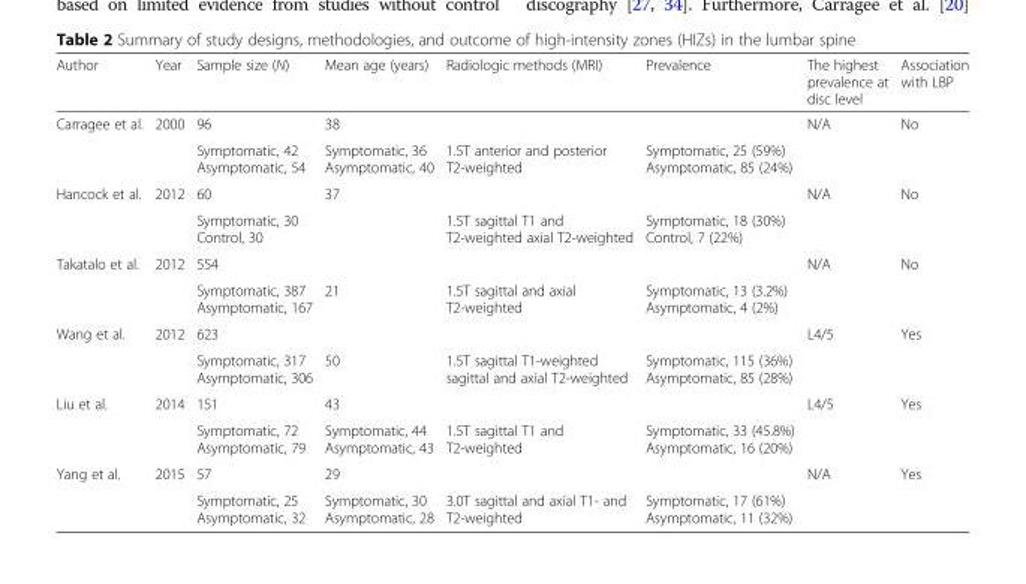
<table><thead><tr><td>Author</td><td>Year</td><td>Sample size (N)</td><td>Mean age (years)</td><td>Radiologic methods (MRI)</td><td>Prevalence</td><td>The highest prevalence at disc level</td><td>Association with LBP</td></tr></thead><tbody><tr><td rowspan="2">Carragee et al.</td><td rowspan="2">2000</td><td>96</td><td>38</td><td></td><td></td><td rowspan="2">N/A</td><td rowspan="2">No</td></tr><tr><td>Symptomatic, 42 Asymptomatic, 54</td><td>Symptomatic, 36 Asymptomatic, 40</td><td>1.5T anterior and posterior T2-weighted</td><td>Symptomatic, 25 (59%) Asymptomatic, 85 (24%)</td></tr><tr><td rowspan="2">Hancock et al.</td><td rowspan="2">2012</td><td>60</td><td rowspan="2">37</td><td></td><td></td><td rowspan="2">N/A</td><td rowspan="2">No</td></tr><tr><td>Symptomatic, 30 Control, 30</td><td>1.5T sagittal T1 and T2-weighted axial T2-weighted</td><td>Symptomatic, 18 (30%) Control, 7 (22%)</td></tr><tr><td rowspan="2">Takatalo et al.</td><td rowspan="2">2012</td><td>554</td><td></td><td></td><td></td><td rowspan="2">N/A</td><td rowspan="2">No</td></tr><tr><td>Symptomatic, 387 Asymptomatic, 167</td><td>21</td><td>1.5T sagittal and axial T2-weighted</td><td>Symptomatic, 13 (3.2%) Asymptomatic, 4 (2%)</td></tr><tr><td rowspan="2">Wang et al.</td><td rowspan="2">2012</td><td>623</td><td></td><td></td><td></td><td rowspan="2">L4/5</td><td rowspan="2">Yes</td></tr><tr><td>Symptomatic, 317 Asymptomatic, 306</td><td>50</td><td>1.5T sagittal T1-weighted sagittal and axial T2-weighted</td><td>Symptomatic, 115 (36%) Asymptomatic, 85 (28%)</td></tr><tr><td rowspan="2">Liu et al.</td><td rowspan="2">2014</td><td>151</td><td>43</td><td></td><td></td><td rowspan="2">L4/5</td><td rowspan="2">Yes</td></tr><tr><td>Symptomatic, 72 Asymptomatic, 79</td><td>Symptomatic, 44 Asymptomatic, 43</td><td>1.5T sagittal T1 and T2-weighted</td><td>Symptomatic, 33 (45.8%) Asymptomatic, 16 (20%)</td></tr><tr><td rowspan="2">Yang et al.</td><td rowspan="2">2015</td><td>57</td><td>29</td><td></td><td></td><td rowspan="2">N/A</td><td rowspan="2">Yes</td></tr><tr><td>Symptomatic, 25 Asymptomatic, 32</td><td>Symptomatic, 30 Asymptomatic, 28</td><td>3.0T sagittal and axial T1- and T2-weighted</td><td>Symptomatic, 17 (61%) Asymptomatic, 11 (32%)</td></tr></tbody></table>